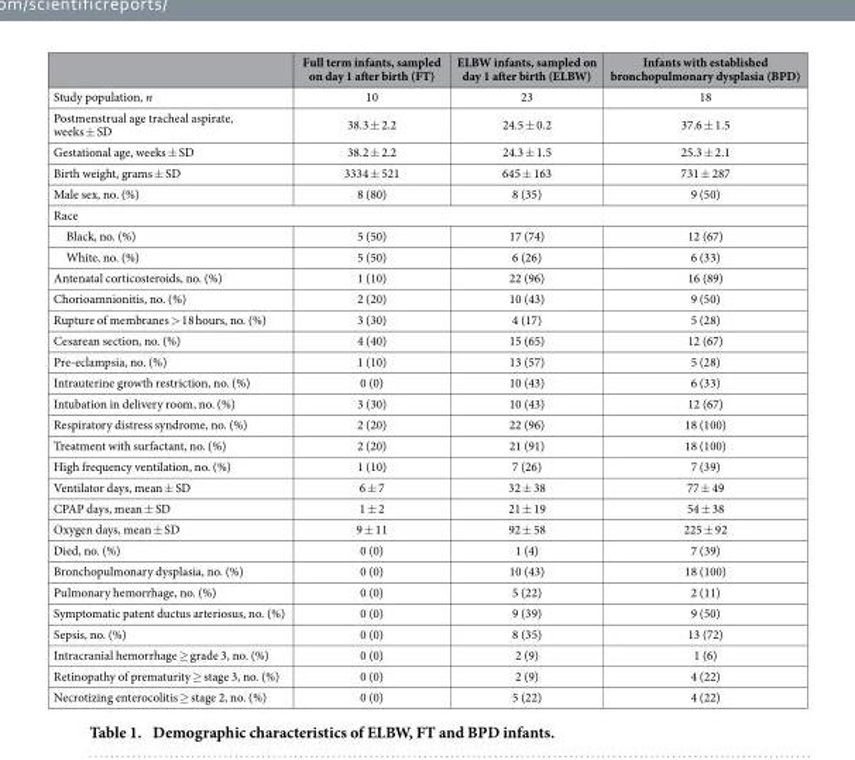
<table><thead><tr><td></td><td>Full term infants, sampled on day 1 after birth (FT)</td><td>ELBW infants, sampled on day 1 after birth (ELBW)</td><td>Infants with established bronchopulmonary dysplasia (BPD)</td></tr></thead><tbody><tr><td>Study population, n</td><td>10</td><td>23</td><td>18</td></tr><tr><td>Postmenstrual age tracheal aspirate, weeks ± SD</td><td>38.3 ± 2.2</td><td>24.5 ± 0.2</td><td>37.6 ± 1.5</td></tr><tr><td>Gestational age, weeks ± SD</td><td>38.2 ± 2.2</td><td>24.3 ± 1.5</td><td>25.3 ± 2.1</td></tr><tr><td>Birth weight, grams ± SD</td><td>3334 ± 521</td><td>645 ± 163</td><td>731 ± 287</td></tr><tr><td>Male sex, no. (%)</td><td>8 (80)</td><td>8 (35)</td><td>9 (50)</td></tr><tr><td colspan="4">Race</td></tr><tr><td>Black, no. (%)</td><td>5 (50)</td><td>17 (74)</td><td>12 (67)</td></tr><tr><td>White, no. (%)</td><td>5 (50)</td><td>6 (26)</td><td>6 (33)</td></tr><tr><td>Antenatal corticosteroids, no. (%)</td><td>1 (10)</td><td>22 (96)</td><td>16 (89)</td></tr><tr><td>Chorioamnionitis, no. (%)</td><td>2 (20)</td><td>10 (43)</td><td>9 (50)</td></tr><tr><td>Rupture of membranes &gt; 18 hours, no. (%)</td><td>3 (30)</td><td>4 (17)</td><td>5 (28)</td></tr><tr><td>Cesarean section, no. (%)</td><td>4 (40)</td><td>15 (65)</td><td>12 (67)</td></tr><tr><td>Pre-eclampsia, no. (%)</td><td>1 (10)</td><td>13 (57)</td><td>5 (28)</td></tr><tr><td>Intrauterine growth restriction, no. (%)</td><td>0 (0)</td><td>10 (43)</td><td>6 (33)</td></tr><tr><td>Intubation in delivery room, no. (%)</td><td>3 (30)</td><td>10 (43)</td><td>12 (67)</td></tr><tr><td>Respiratory distress syndrome, no. (%)</td><td>2 (20)</td><td>22 (96)</td><td>18 (100)</td></tr><tr><td>Treatment with surfactant, no. (%)</td><td>2 (20)</td><td>21 (91)</td><td>18 (100)</td></tr><tr><td>High frequency ventilation, no. (%)</td><td>1 (10)</td><td>7 (26)</td><td>7 (39)</td></tr><tr><td>Ventilator days, mean ± SD</td><td>6 ± 7</td><td>32 ± 38</td><td>77 ± 49</td></tr><tr><td>CPAP days, mean ± SD</td><td>1 ± 2</td><td>21 ± 19</td><td>54 ± 38</td></tr><tr><td>Oxygen days, mean ± SD</td><td>9 ± 11</td><td>92 ± 58</td><td>225 ± 92</td></tr><tr><td>Died, no. (%)</td><td>0 (0)</td><td>1 (4)</td><td>7 (39)</td></tr><tr><td>Bronchopulmonary dysplasia, no. (%)</td><td>0 (0)</td><td>10 (43)</td><td>18 (100)</td></tr><tr><td>Pulmonary hemorrhage, no. (%)</td><td>0 (0)</td><td>5 (22)</td><td>2 (11)</td></tr><tr><td>Symptomatic patent ductus arteriosus, no. (%)</td><td>0 (0)</td><td>9 (39)</td><td>9 (50)</td></tr><tr><td>Sepsis, no. (%)</td><td>0 (0)</td><td>8 (35)</td><td>13 (72)</td></tr><tr><td>Intracranial hemorrhage ≥ grade 3, no. (%)</td><td>0 (0)</td><td>2 (9)</td><td>1 (6)</td></tr><tr><td>Retinopathy of prematurity ≥ stage 3, no. (%)</td><td>0 (0)</td><td>2 (9)</td><td>4 (22)</td></tr><tr><td>Necrotizing enterocolitis ≥ stage 2, no. (%)</td><td>0 (0)</td><td>5 (22)</td><td>4 (22)</td></tr></tbody></table>